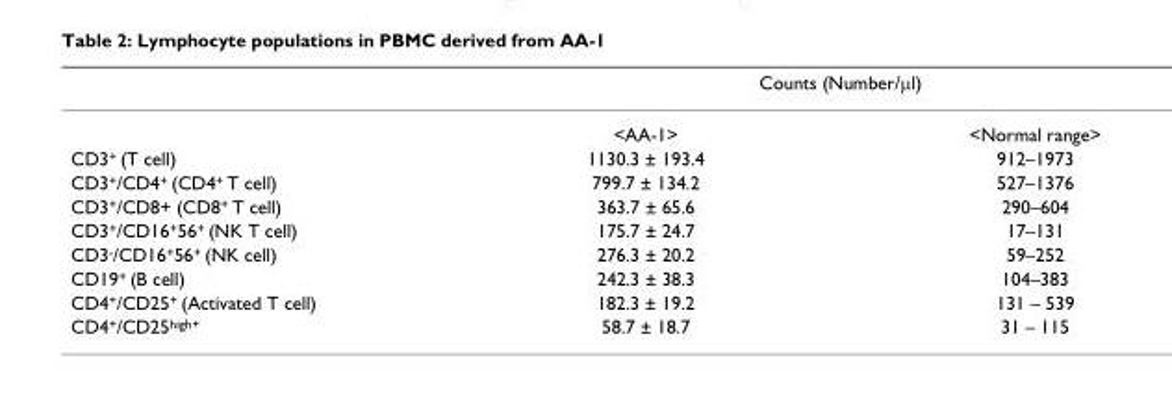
<table><thead><tr><td rowspan="2"></td><td colspan="2">Counts (Number/µl)</td></tr><tr><td>&lt;AA-1&gt;</td><td>&lt;Normal range&gt;</td></tr></thead><tbody><tr><td>CD3<sup>+</sup> (T cell)</td><td>1130.3 ± 193.4</td><td>912–1973</td></tr><tr><td>CD3<sup>+</sup>/CD4<sup>+</sup> (CD4<sup>+</sup> T cell)</td><td>799.7 ± 134.2</td><td>527–1376</td></tr><tr><td>CD3<sup>+</sup>/CD8+ (CD8<sup>+</sup> T cell)</td><td>363.7 ± 65.6</td><td>290–604</td></tr><tr><td>CD3<sup>+</sup>/CD16<sup>+</sup>56<sup>+</sup> (NK T cell)</td><td>175.7 ± 24.7</td><td>17–131</td></tr><tr><td>CD3<sup>-</sup>/CD16<sup>+</sup>56<sup>+</sup> (NK cell)</td><td>276.3 ± 20.2</td><td>59–252</td></tr><tr><td>CD19<sup>+</sup> (B cell)</td><td>242.3 ± 38.3</td><td>104–383</td></tr><tr><td>CD4<sup>+</sup>/CD25<sup>+</sup> (Activated T cell)</td><td>182.3 ± 19.2</td><td>131 – 539</td></tr><tr><td>CD4<sup>+</sup>/CD25<sup>high+</sup></td><td>58.7 ± 18.7</td><td>31 – 115</td></tr></tbody></table>